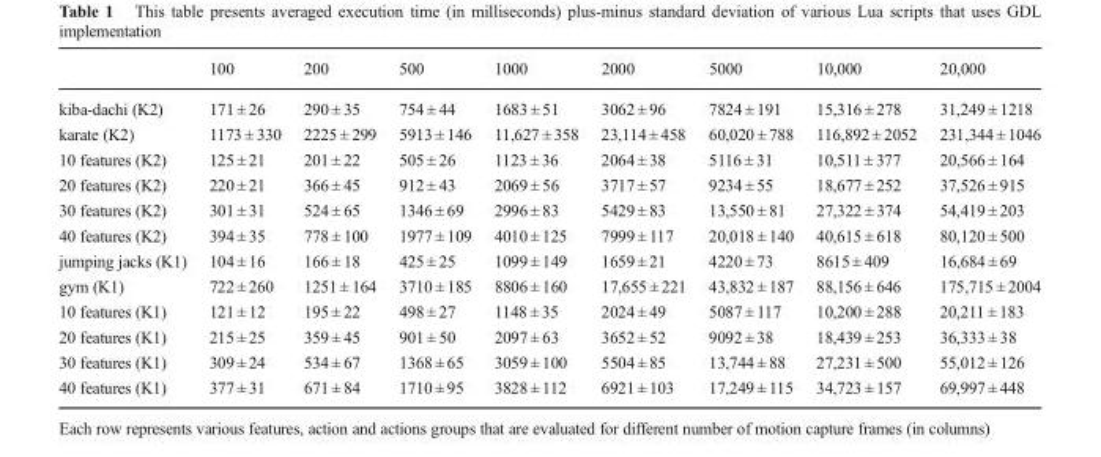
<table><thead><tr><td></td><td>100</td><td>200</td><td>500</td><td>1000</td><td>2000</td><td>5000</td><td>10,000</td><td>20,000</td></tr></thead><tbody><tr><td>kiba-dachi (K2)</td><td>171 ± 26</td><td>290 ± 35</td><td>754 ± 44</td><td>1683 ± 51</td><td>3062 ± 96</td><td>7824 ± 191</td><td>15,316 ± 278</td><td>31,249 ± 1218</td></tr><tr><td>karate (K2)</td><td>1173 ± 330</td><td>2225 ± 299</td><td>5913 ± 146</td><td>11,627 ± 358</td><td>23,114 ± 458</td><td>60,020 ± 788</td><td>116,892 ± 2052</td><td>231,344 ± 1046</td></tr><tr><td>10 features (K2)</td><td>125 ± 21</td><td>201 ± 22</td><td>505 ± 26</td><td>1123 ± 36</td><td>2064 ± 38</td><td>5116 ± 31</td><td>10,511 ± 377</td><td>20,566 ± 164</td></tr><tr><td>20 features (K2)</td><td>220 ± 21</td><td>366 ± 45</td><td>912 ± 43</td><td>2069 ± 56</td><td>3717 ± 57</td><td>9234 ± 55</td><td>18,677 ± 252</td><td>37,526 ± 915</td></tr><tr><td>30 features (K2)</td><td>301 ± 31</td><td>524 ± 65</td><td>1346 ± 69</td><td>2996 ± 83</td><td>5429 ± 83</td><td>13,550 ± 81</td><td>27,322 ± 374</td><td>54,419 ± 203</td></tr><tr><td>40 features (K2)</td><td>394 ± 35</td><td>778 ± 100</td><td>1977 ± 109</td><td>4010 ± 125</td><td>7999 ± 117</td><td>20,018 ± 140</td><td>40,615 ± 618</td><td>80,120 ± 500</td></tr><tr><td>jumping jacks (K1)</td><td>104 ± 16</td><td>166 ± 18</td><td>425 ± 25</td><td>1099 ± 149</td><td>1659 ± 21</td><td>4220 ± 73</td><td>8615 ± 409</td><td>16,684 ± 69</td></tr><tr><td>gym (K1)</td><td>722 ± 260</td><td>1251 ± 164</td><td>3710 ± 185</td><td>8806 ± 160</td><td>17,655 ± 221</td><td>43,832 ± 187</td><td>88,156 ± 646</td><td>175,715 ± 2004</td></tr><tr><td>10 features (K1)</td><td>121 ± 12</td><td>195 ± 22</td><td>498 ± 27</td><td>1148 ± 35</td><td>2024 ± 49</td><td>5087 ± 117</td><td>10,200 ± 288</td><td>20,211 ± 183</td></tr><tr><td>20 features (K1)</td><td>215 ± 25</td><td>359 ± 45</td><td>901 ± 50</td><td>2097 ± 63</td><td>3652 ± 52</td><td>9092 ± 38</td><td>18,439 ± 253</td><td>36,333 ± 38</td></tr><tr><td>30 features (K1)</td><td>309 ± 24</td><td>534 ± 67</td><td>1368 ± 65</td><td>3059 ± 100</td><td>5504 ± 85</td><td>13,744 ± 88</td><td>27,231 ± 500</td><td>55,012 ± 126</td></tr><tr><td>40 features (K1)</td><td>377 ± 31</td><td>671 ± 84</td><td>1710 ± 95</td><td>3828 ± 112</td><td>6921 ± 103</td><td>17,249 ± 115</td><td>34,723 ± 157</td><td>69,997 ± 448</td></tr></tbody></table>